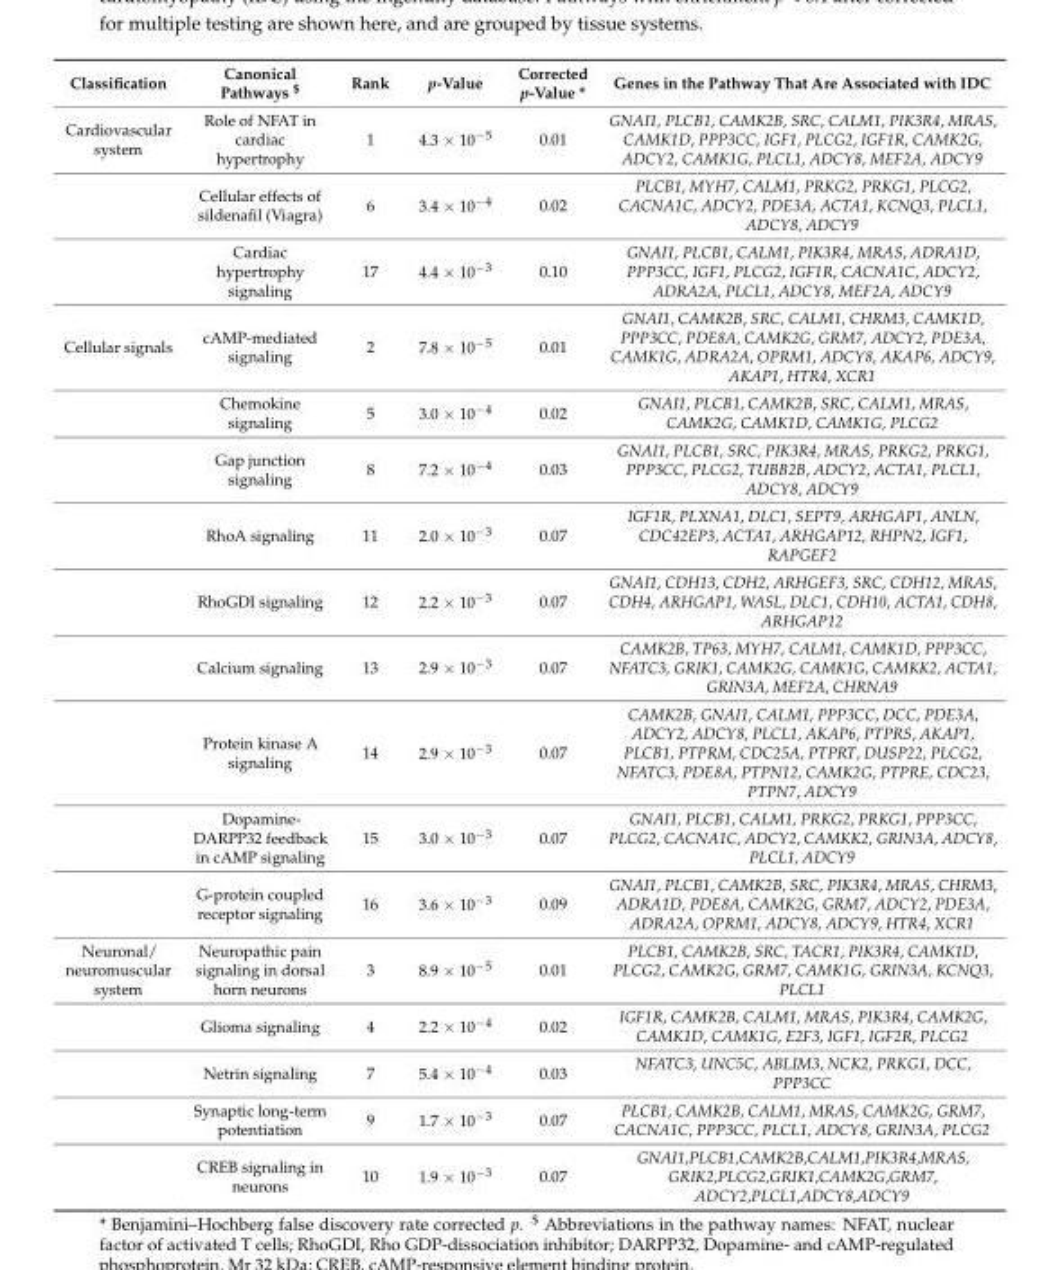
<table><thead><tr><td>Classification</td><td>Canonical Pathways <sup>$</sup></td><td>Rank</td><td>p-Value</td><td>Corrected p-Value *</td><td>Genes in the Pathway That Are Associated with IDC</td></tr></thead><tbody><tr><td rowspan="3">Cardiovascular system</td><td>Role of NFAT in cardiac hypertrophy</td><td>1</td><td>4.3 × 10<sup>−5</sup></td><td>0.01</td><td>GNAI1, PLCB1, CAMK2B, SRC, CALM1, PIK3R4, MRAS, CAMK1D, PPP3CC, IGF1, PLCG2, IGF1R, CAMK2G, ADCY2, CAMK1G, PLCL1, ADCY8, MEF2A, ADCY9</td></tr><tr><td>Cellular effects of sildenafil (Viagra)</td><td>6</td><td>3.4 × 10<sup>−4</sup></td><td>0.02</td><td>PLCB1, MYH7, CALM1, PRKG2, PRKG1, PLCG2, CACNA1C, ADCY2, PDE3A, ACTA1, KCNQ3, PLCL1, ADCY8, ADCY9</td></tr><tr><td>Cardiac hypertrophy signaling</td><td>17</td><td>4.4 × 10<sup>−3</sup></td><td>0.10</td><td>GNAI1, PLCB1, CALM1, PIK3R4, MRAS, ADRA1D, PPP3CC, IGF1, PLCG2, IGF1R, CACNA1C, ADCY2, ADRA2A, PLCL1, ADCY8, MEF2A, ADCY9</td></tr><tr><td rowspan="9">Cellular signals</td><td>cAMP-mediated signaling</td><td>2</td><td>7.8 × 10<sup>−5</sup></td><td>0.01</td><td>GNAI1, CAMK2B, SRC, CALM1, CHRM3, CAMK1D, PPP3CC, PDE8A, CAMK2G, GRM7, ADCY2, PDE3A, CAMK1G, ADRA2A, OPRM1, ADCY8, AKAP6, ADCY9, AKAP1, HTR4, XCR1</td></tr><tr><td>Chemokine signaling</td><td>5</td><td>3.0 × 10<sup>−4</sup></td><td>0.02</td><td>GNAI1, PLCB1, CAMK2B, SRC, CALM1, MRAS, CAMK2G, CAMK1D, CAMK1G, PLCG2</td></tr><tr><td>Gap junction signaling</td><td>8</td><td>7.2 × 10<sup>−4</sup></td><td>0.03</td><td>GNAI1, PLCB1, SRC, PIK3R4, MRAS, PRKG2, PRKG1, PPP3CC, PLCG2, TUBB2B, ADCY2, ACTA1, PLCL1, ADCY8, ADCY9</td></tr><tr><td>RhoA signaling</td><td>11</td><td>2.0 × 10<sup>−3</sup></td><td>0.07</td><td>IGF1R, PLXNA1, DLC1, SEPT9, ARHGAP1, ANLN, CDC42EP3, ACTA1, ARHGAP12, RHPN2, IGF1, RAPGEF2</td></tr><tr><td>RhoGDI signaling</td><td>12</td><td>2.2 × 10<sup>−3</sup></td><td>0.07</td><td>GNAI1, CDH13, CDH2, ARHGEF3, SRC, CDH12, MRAS, CDH4, ARHGAP1, WASL, DLC1, CDH10, ACTA1, CDH8, ARHGAP12</td></tr><tr><td>Calcium signaling</td><td>13</td><td>2.9 × 10<sup>−3</sup></td><td>0.07</td><td>CAMK2B, TP63, MYH7, CALM1, CAMK1D, PPP3CC, NFATC3, GRIK1, CAMK2G, CAMK1G, CAMKK2, ACTA1, GRIN3A, MEF2A, CHRNA9</td></tr><tr><td>Protein kinase A signaling</td><td>14</td><td>2.9 × 10<sup>−3</sup></td><td>0.07</td><td>CAMK2B, GNAI1, CALM1, PPP3CC, DCC, PDE3A, ADCY2, ADCY8, PLCL1, AKAP6, PTPRS, AKAP1, PLCB1, PTPRM, CDC25A, PTPRT, DUSP22, PLCG2, NFATC3, PDE8A, PTPN12, CAMK2G, PTPRE, CDC23, PTPN7, ADCY9</td></tr><tr><td>Dopamine- DARPP32 feedback in cAMP signaling</td><td>15</td><td>3.0 × 10<sup>−3</sup></td><td>0.07</td><td>GNAI1, PLCB1, CALM1, PRKG2, PRKG1, PPP3CC, PLCG2, CACNA1C, ADCY2, CAMKK2, GRIN3A, ADCY8, PLCL1, ADCY9</td></tr><tr><td>G-protein coupled receptor signaling</td><td>16</td><td>3.6 × 10<sup>−3</sup></td><td>0.09</td><td>GNAI1, PLCB1, CAMK2B, SRC, PIK3R4, MRAS, CHRM3, ADRA1D, PDE8A, CAMK2G, GRM7, ADCY2, PDE3A, ADRA2A, OPRM1, ADCY8, ADCY9, HTR4, XCR1</td></tr><tr><td rowspan="5">Neuronal/ neuromuscular system</td><td>Neuropathic pain signaling in dorsal horn neurons</td><td>3</td><td>8.9 × 10<sup>−5</sup></td><td>0.01</td><td>PLCB1, CAMK2B, SRC, TACR1, PIK3R4, CAMK1D, PLCG2, CAMK2G, GRM7, CAMK1G, GRIN3A, KCNQ3, PLCL1</td></tr><tr><td>Glioma signaling</td><td>4</td><td>2.2 × 10<sup>−4</sup></td><td>0.02</td><td>IGF1R, CAMK2B, CALM1, MRAS, PIK3R4, CAMK2G, CAMK1D, CAMK1G, E2F3, IGF1, IGF2R, PLCG2</td></tr><tr><td>Netrin signaling</td><td>7</td><td>5.4 × 10<sup>−4</sup></td><td>0.03</td><td>NFATC3, UNC5C, ABLIM3, NCK2, PRKG1, DCC, PPP3CC</td></tr><tr><td>Synaptic long-term potentiation</td><td>9</td><td>1.7 × 10<sup>−3</sup></td><td>0.07</td><td>PLCB1, CAMK2B, CALM1, MRAS, CAMK2G, GRM7, CACNA1C, PPP3CC, PLCL1, ADCY8, GRIN3A, PLCG2</td></tr><tr><td>CREB signaling in neurons</td><td>10</td><td>1.9 × 10<sup>−3</sup></td><td>0.07</td><td>GNAI1,PLCB1,CAMK2B,CALM1,PIK3R4,MRAS, GRIK2,PLCG2,GRIK1,CAMK2G,GRM7, ADCY2,PLCL1,ADCY8,ADCY9</td></tr></tbody></table>